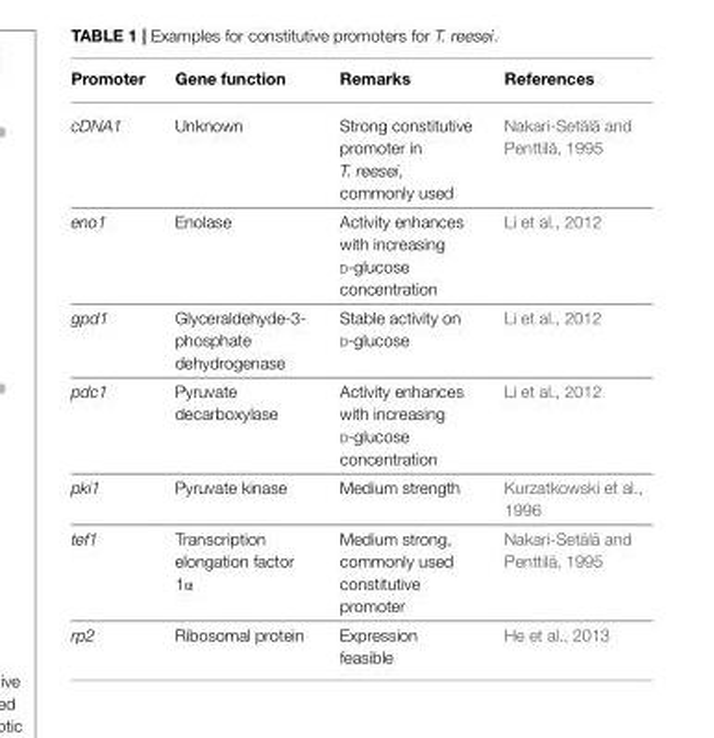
<table><thead><tr><td>Promoter</td><td>Gene function</td><td>Remarks</td><td>References</td></tr></thead><tbody><tr><td>cDNA1</td><td>Unknown</td><td>Strong constitutive promoter in T. reesei, commonly used</td><td>Nakari-Setälä and Penttilä, 1995</td></tr><tr><td>eno1</td><td>Enolase</td><td>Activity enhances with increasing D-glucose concentration</td><td>Li et al., 2012</td></tr><tr><td>gpd1</td><td>Glyceraldehyde-3- phosphate dehydrogenase</td><td>Stable activity on D-glucose</td><td>Li et al., 2012</td></tr><tr><td>pdc1</td><td>Pyruvate decarboxylase</td><td>Activity enhances with increasing D-glucose concentration</td><td>Li et al., 2012</td></tr><tr><td>pki1</td><td>Pyruvate kinase</td><td>Medium strength</td><td>Kurzatkowski et al., 1996</td></tr><tr><td>tef1</td><td>Transcription elongation factor 1α</td><td>Medium strong, commonly used constitutive promoter</td><td>Nakari-Setälä and Penttilä, 1995</td></tr><tr><td>rp2</td><td>Ribosomal protein</td><td>Expression feasible</td><td>He et al., 2013</td></tr></tbody></table>